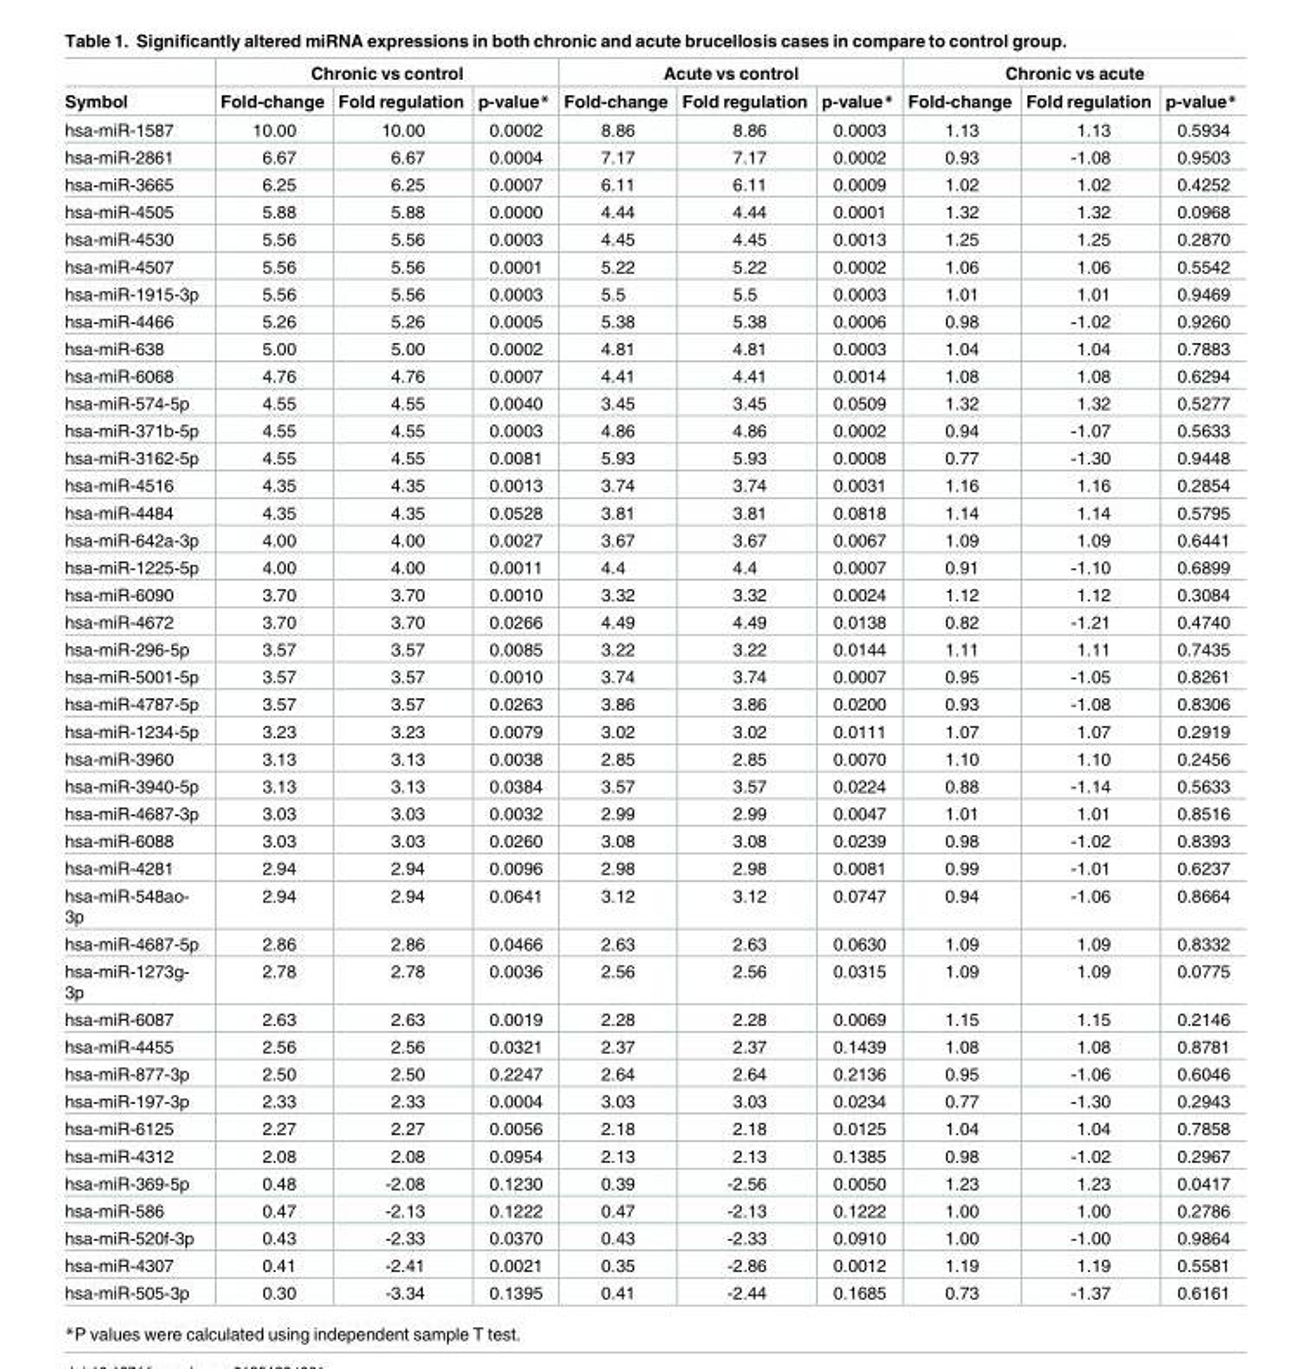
<table><thead><tr><td rowspan="2">Symbol</td><td colspan="3">Chronic vs control</td><td colspan="3">Acute vs control</td><td colspan="3">Chronic vs acute</td></tr><tr><td>Fold-change</td><td>Fold regulation</td><td>p-value*</td><td>Fold-change</td><td>Fold regulation</td><td>p-value*</td><td>Fold-change</td><td>Fold regulation</td><td>p-value*</td></tr></thead><tbody><tr><td>hsa-miR-1587</td><td>10.00</td><td>10.00</td><td>0.0002</td><td>8.86</td><td>8.86</td><td>0.0003</td><td>1.13</td><td>1.13</td><td>0.5934</td></tr><tr><td>hsa-miR-2861</td><td>6.67</td><td>6.67</td><td>0.0004</td><td>7.17</td><td>7.17</td><td>0.0002</td><td>0.93</td><td>-1.08</td><td>0.9503</td></tr><tr><td>hsa-miR-3665</td><td>6.25</td><td>6.25</td><td>0.0007</td><td>6.11</td><td>6.11</td><td>0.0009</td><td>1.02</td><td>1.02</td><td>0.4252</td></tr><tr><td>hsa-miR-4505</td><td>5.88</td><td>5.88</td><td>0.0000</td><td>4.44</td><td>4.44</td><td>0.0001</td><td>1.32</td><td>1.32</td><td>0.0968</td></tr><tr><td>hsa-miR-4530</td><td>5.56</td><td>5.56</td><td>0.0003</td><td>4.45</td><td>4.45</td><td>0.0013</td><td>1.25</td><td>1.25</td><td>0.2870</td></tr><tr><td>hsa-miR-4507</td><td>5.56</td><td>5.56</td><td>0.0001</td><td>5.22</td><td>5.22</td><td>0.0002</td><td>1.06</td><td>1.06</td><td>0.5542</td></tr><tr><td>hsa-miR-1915-3p</td><td>5.56</td><td>5.56</td><td>0.0003</td><td>5.5</td><td>5.5</td><td>0.0003</td><td>1.01</td><td>1.01</td><td>0.9469</td></tr><tr><td>hsa-miR-4466</td><td>5.26</td><td>5.26</td><td>0.0005</td><td>5.38</td><td>5.38</td><td>0.0006</td><td>0.98</td><td>-1.02</td><td>0.9260</td></tr><tr><td>hsa-miR-638</td><td>5.00</td><td>5.00</td><td>0.0002</td><td>4.81</td><td>4.81</td><td>0.0003</td><td>1.04</td><td>1.04</td><td>0.7883</td></tr><tr><td>hsa-miR-6068</td><td>4.76</td><td>4.76</td><td>0.0007</td><td>4.41</td><td>4.41</td><td>0.0014</td><td>1.08</td><td>1.08</td><td>0.6294</td></tr><tr><td>hsa-miR-574-5p</td><td>4.55</td><td>4.55</td><td>0.0040</td><td>3.45</td><td>3.45</td><td>0.0509</td><td>1.32</td><td>1.32</td><td>0.5277</td></tr><tr><td>hsa-miR-371b-5p</td><td>4.55</td><td>4.55</td><td>0.0003</td><td>4.86</td><td>4.86</td><td>0.0002</td><td>0.94</td><td>-1.07</td><td>0.5633</td></tr><tr><td>hsa-miR-3162-5p</td><td>4.55</td><td>4.55</td><td>0.0081</td><td>5.93</td><td>5.93</td><td>0.0008</td><td>0.77</td><td>-1.30</td><td>0.9448</td></tr><tr><td>hsa-miR-4516</td><td>4.35</td><td>4.35</td><td>0.0013</td><td>3.74</td><td>3.74</td><td>0.0031</td><td>1.16</td><td>1.16</td><td>0.2854</td></tr><tr><td>hsa-miR-4484</td><td>4.35</td><td>4.35</td><td>0.0528</td><td>3.81</td><td>3.81</td><td>0.0818</td><td>1.14</td><td>1.14</td><td>0.5795</td></tr><tr><td>hsa-miR-642a-3p</td><td>4.00</td><td>4.00</td><td>0.0027</td><td>3.67</td><td>3.67</td><td>0.0067</td><td>1.09</td><td>1.09</td><td>0.6441</td></tr><tr><td>hsa-miR-1225-5p</td><td>4.00</td><td>4.00</td><td>0.0011</td><td>4.4</td><td>4.4</td><td>0.0007</td><td>0.91</td><td>-1.10</td><td>0.6899</td></tr><tr><td>hsa-miR-6090</td><td>3.70</td><td>3.70</td><td>0.0010</td><td>3.32</td><td>3.32</td><td>0.0024</td><td>1.12</td><td>1.12</td><td>0.3084</td></tr><tr><td>hsa-miR-4672</td><td>3.70</td><td>3.70</td><td>0.0266</td><td>4.49</td><td>4.49</td><td>0.0138</td><td>0.82</td><td>-1.21</td><td>0.4740</td></tr><tr><td>hsa-miR-296-5p</td><td>3.57</td><td>3.57</td><td>0.0085</td><td>3.22</td><td>3.22</td><td>0.0144</td><td>1.11</td><td>1.11</td><td>0.7435</td></tr><tr><td>hsa-miR-5001-5p</td><td>3.57</td><td>3.57</td><td>0.0010</td><td>3.74</td><td>3.74</td><td>0.0007</td><td>0.95</td><td>-1.05</td><td>0.8261</td></tr><tr><td>hsa-miR-4787-5p</td><td>3.57</td><td>3.57</td><td>0.0263</td><td>3.86</td><td>3.86</td><td>0.0200</td><td>0.93</td><td>-1.08</td><td>0.8306</td></tr><tr><td>hsa-miR-1234-5p</td><td>3.23</td><td>3.23</td><td>0.0079</td><td>3.02</td><td>3.02</td><td>0.0111</td><td>1.07</td><td>1.07</td><td>0.2919</td></tr><tr><td>hsa-miR-3960</td><td>3.13</td><td>3.13</td><td>0.0038</td><td>2.85</td><td>2.85</td><td>0.0070</td><td>1.10</td><td>1.10</td><td>0.2456</td></tr><tr><td>hsa-miR-3940-5p</td><td>3.13</td><td>3.13</td><td>0.0384</td><td>3.57</td><td>3.57</td><td>0.0224</td><td>0.88</td><td>-1.14</td><td>0.5633</td></tr><tr><td>hsa-miR-4687-3p</td><td>3.03</td><td>3.03</td><td>0.0032</td><td>2.99</td><td>2.99</td><td>0.0047</td><td>1.01</td><td>1.01</td><td>0.8516</td></tr><tr><td>hsa-miR-6088</td><td>3.03</td><td>3.03</td><td>0.0260</td><td>3.08</td><td>3.08</td><td>0.0239</td><td>0.98</td><td>-1.02</td><td>0.8393</td></tr><tr><td>hsa-miR-4281</td><td>2.94</td><td>2.94</td><td>0.0096</td><td>2.98</td><td>2.98</td><td>0.0081</td><td>0.99</td><td>-1.01</td><td>0.6237</td></tr><tr><td>hsa-miR-548ao- 3p</td><td>2.94</td><td>2.94</td><td>0.0641</td><td>3.12</td><td>3.12</td><td>0.0747</td><td>0.94</td><td>-1.06</td><td>0.8664</td></tr><tr><td>hsa-miR-4687-5p</td><td>2.86</td><td>2.86</td><td>0.0466</td><td>2.63</td><td>2.63</td><td>0.0630</td><td>1.09</td><td>1.09</td><td>0.8332</td></tr><tr><td>hsa-miR-1273g- 3p</td><td>2.78</td><td>2.78</td><td>0.0036</td><td>2.56</td><td>2.56</td><td>0.0315</td><td>1.09</td><td>1.09</td><td>0.0775</td></tr><tr><td>hsa-miR-6087</td><td>2.63</td><td>2.63</td><td>0.0019</td><td>2.28</td><td>2.28</td><td>0.0069</td><td>1.15</td><td>1.15</td><td>0.2146</td></tr><tr><td>hsa-miR-4455</td><td>2.56</td><td>2.56</td><td>0.0321</td><td>2.37</td><td>2.37</td><td>0.1439</td><td>1.08</td><td>1.08</td><td>0.8781</td></tr><tr><td>hsa-miR-877-3p</td><td>2.50</td><td>2.50</td><td>0.2247</td><td>2.64</td><td>2.64</td><td>0.2136</td><td>0.95</td><td>-1.06</td><td>0.6046</td></tr><tr><td>hsa-miR-197-3p</td><td>2.33</td><td>2.33</td><td>0.0004</td><td>3.03</td><td>3.03</td><td>0.0234</td><td>0.77</td><td>-1.30</td><td>0.2943</td></tr><tr><td>hsa-miR-6125</td><td>2.27</td><td>2.27</td><td>0.0056</td><td>2.18</td><td>2.18</td><td>0.0125</td><td>1.04</td><td>1.04</td><td>0.7858</td></tr><tr><td>hsa-miR-4312</td><td>2.08</td><td>2.08</td><td>0.0954</td><td>2.13</td><td>2.13</td><td>0.1385</td><td>0.98</td><td>-1.02</td><td>0.2967</td></tr><tr><td>hsa-miR-369-5p</td><td>0.48</td><td>-2.08</td><td>0.1230</td><td>0.39</td><td>-2.56</td><td>0.0050</td><td>1.23</td><td>1.23</td><td>0.0417</td></tr><tr><td>hsa-miR-586</td><td>0.47</td><td>-2.13</td><td>0.1222</td><td>0.47</td><td>-2.13</td><td>0.1222</td><td>1.00</td><td>1.00</td><td>0.2786</td></tr><tr><td>hsa-miR-520f-3p</td><td>0.43</td><td>-2.33</td><td>0.0370</td><td>0.43</td><td>-2.33</td><td>0.0910</td><td>1.00</td><td>-1.00</td><td>0.9864</td></tr><tr><td>hsa-miR-4307</td><td>0.41</td><td>-2.41</td><td>0.0021</td><td>0.35</td><td>-2.86</td><td>0.0012</td><td>1.19</td><td>1.19</td><td>0.5581</td></tr><tr><td>hsa-miR-505-3p</td><td>0.30</td><td>-3.34</td><td>0.1395</td><td>0.41</td><td>-2.44</td><td>0.1685</td><td>0.73</td><td>-1.37</td><td>0.6161</td></tr></tbody></table>